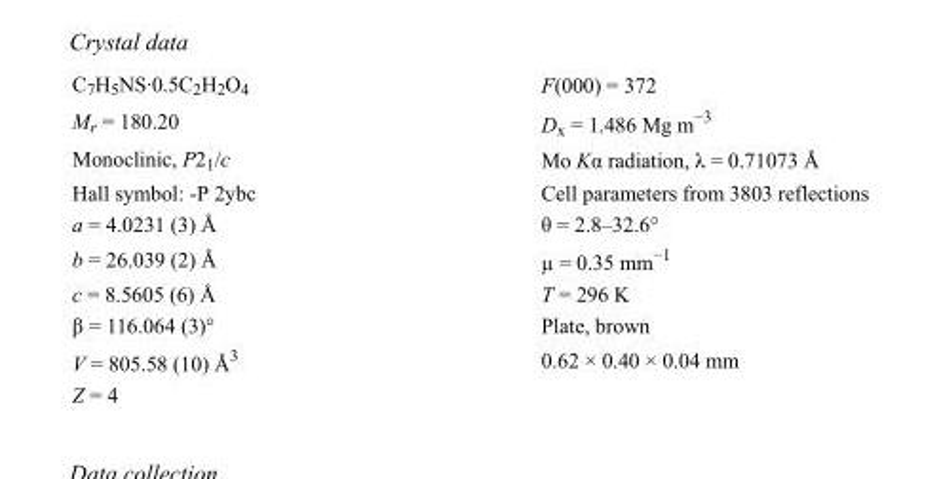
<table><tbody><tr><td>C<sub>7</sub>H<sub>5</sub>NS·0.5C<sub>2</sub>H<sub>2</sub>O<sub>4</sub></td><td>F(000) = 372</td></tr><tr><td>M<sub>r</sub> = 180.20</td><td>D<sub>x</sub> = 1.486 Mg m<sup>−3</sup></td></tr><tr><td>Monoclinic, P2<sub>1</sub>/c</td><td>Mo Kα radiation, λ = 0.71073 Å</td></tr><tr><td>Hall symbol: -P 2ybc</td><td>Cell parameters from 3803 reflections</td></tr><tr><td>a = 4.0231 (3) Å</td><td>θ = 2.8–32.6°</td></tr><tr><td>b = 26.039 (2) Å</td><td>µ = 0.35 mm<sup>−1</sup></td></tr><tr><td>c = 8.5605 (6) Å</td><td>T = 296 K</td></tr><tr><td>β = 116.064 (3)°</td><td>Plate, brown</td></tr><tr><td>V = 805.58 (10) Å<sup>3</sup></td><td>0.62 × 0.40 × 0.04 mm</td></tr><tr><td>Z = 4</td><td></td></tr></tbody></table>